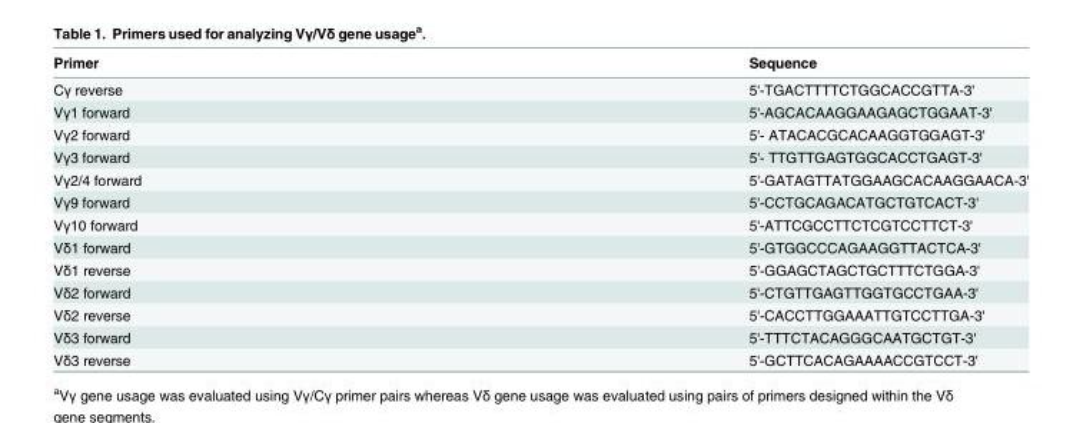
<table><thead><tr><td>Primer</td><td>Sequence</td></tr></thead><tbody><tr><td>Cγ reverse</td><td>5&#x27;-TGACTTTTCTGGCACCGTTA-3&#x27;</td></tr><tr><td>Vγ1 forward</td><td>5&#x27;-AGCACAAGGAAGAGCTGGAAT-3&#x27;</td></tr><tr><td>Vγ2 forward</td><td>5&#x27;- ATACACGCACAAGGTGGAGT-3&#x27;</td></tr><tr><td>Vγ3 forward</td><td>5&#x27;- TTGTTGAGTGGCACCTGAGT-3&#x27;</td></tr><tr><td>Vγ2/4 forward</td><td>5&#x27;-GATAGTTATGGAAGCACAAGGAACA-3&#x27;</td></tr><tr><td>Vγ9 forward</td><td>5&#x27;-CCTGCAGACATGCTGTCACT-3&#x27;</td></tr><tr><td>Vγ10 forward</td><td>5&#x27;-ATTCGCCTTCTCGTCCTTCT-3&#x27;</td></tr><tr><td>Vδ1 forward</td><td>5&#x27;-GTGGCCCAGAAGGTTACTCA-3&#x27;</td></tr><tr><td>Vδ1 reverse</td><td>5&#x27;-GGAGCTAGCTGCTTTCTGGA-3&#x27;</td></tr><tr><td>Vδ2 forward</td><td>5&#x27;-CTGTTGAGTTGGTGCCTGAA-3&#x27;</td></tr><tr><td>Vδ2 reverse</td><td>5&#x27;-CACCTTGGAAATTGTCCTTGA-3&#x27;</td></tr><tr><td>Vδ3 forward</td><td>5&#x27;-TTTCTACAGGGCAATGCTGT-3&#x27;</td></tr><tr><td>Vδ3 reverse</td><td>5&#x27;-GCTTCACAGAAAACCGTCCT-3&#x27;</td></tr></tbody></table>